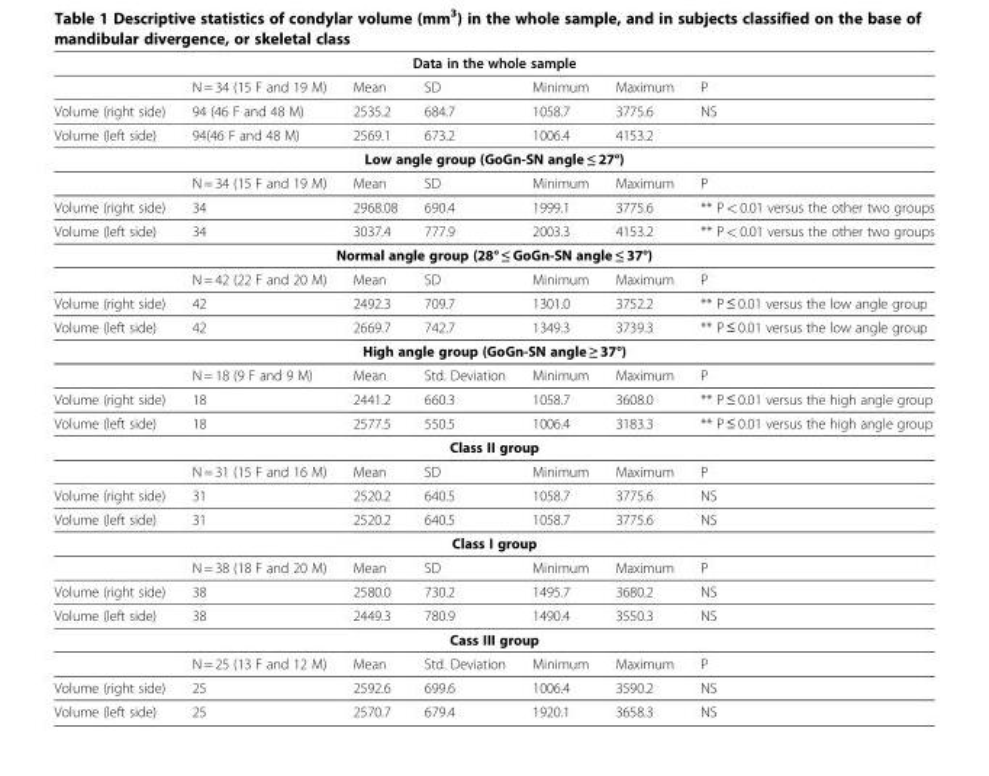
<table><thead><tr><td colspan="7">Data in the whole sample</td></tr><tr><td></td><td>N = 34 (15 F and 19 M)</td><td>Mean</td><td>SD</td><td>Minimum</td><td>Maximum</td><td>P</td></tr></thead><tbody><tr><td>Volume (right side)</td><td>94 (46 F and 48 M)</td><td>2535.2</td><td>684.7</td><td>1058.7</td><td>3775.6</td><td>NS</td></tr><tr><td>Volume (left side)</td><td>94(46 F and 48 M)</td><td>2569.1</td><td>673.2</td><td>1006.4</td><td>4153.2</td><td></td></tr><tr><td colspan="7">Low angle group (GoGn-SN angle ≤ 27°)</td></tr><tr><td></td><td>N = 34 (15 F and 19 M)</td><td>Mean</td><td>SD</td><td>Minimum</td><td>Maximum</td><td>P</td></tr><tr><td>Volume (right side)</td><td>34</td><td>2968.08</td><td>690.4</td><td>1999.1</td><td>3775.6</td><td>** P &lt; 0.01 versus the other two groups</td></tr><tr><td>Volume (left side)</td><td>34</td><td>3037.4</td><td>777.9</td><td>2003.3</td><td>4153.2</td><td>** P &lt; 0.01 versus the other two groups</td></tr><tr><td colspan="7">Normal angle group (28° ≤ GoGn-SN angle ≤ 37°)</td></tr><tr><td></td><td>N = 42 (22 F and 20 M)</td><td>Mean</td><td>SD</td><td>Minimum</td><td>Maximum</td><td>P</td></tr><tr><td>Volume (right side)</td><td>42</td><td>2492.3</td><td>709.7</td><td>1301.0</td><td>3752.2</td><td>** P ≤ 0.01 versus the low angle group</td></tr><tr><td>Volume (left side)</td><td>42</td><td>2669.7</td><td>742.7</td><td>1349.3</td><td>3739.3</td><td>** P ≤ 0.01 versus the low angle group</td></tr><tr><td colspan="7">High angle group (GoGn-SN angle ≥ 37°)</td></tr><tr><td></td><td>N = 18 (9 F and 9 M)</td><td>Mean</td><td>Std. Deviation</td><td>Minimum</td><td>Maximum</td><td>P</td></tr><tr><td>Volume (right side)</td><td>18</td><td>2441.2</td><td>660.3</td><td>1058.7</td><td>3608.0</td><td>** P ≤ 0.01 versus the high angle group</td></tr><tr><td>Volume (left side)</td><td>18</td><td>2577.5</td><td>550.5</td><td>1006.4</td><td>3183.3</td><td>** P ≤ 0.01 versus the high angle group</td></tr><tr><td colspan="7">Class II group</td></tr><tr><td></td><td>N = 31 (15 F and 16 M)</td><td>Mean</td><td>SD</td><td>Minimum</td><td>Maximum</td><td>P</td></tr><tr><td>Volume (right side)</td><td>31</td><td>2520.2</td><td>640.5</td><td>1058.7</td><td>3775.6</td><td>NS</td></tr><tr><td>Volume (left side)</td><td>31</td><td>2520.2</td><td>640.5</td><td>1058.7</td><td>3775.6</td><td>NS</td></tr><tr><td colspan="7">Class I group</td></tr><tr><td></td><td>N = 38 (18 F and 20 M)</td><td>Mean</td><td>SD</td><td>Minimum</td><td>Maximum</td><td>P</td></tr><tr><td>Volume (right side)</td><td>38</td><td>2580.0</td><td>730.2</td><td>1495.7</td><td>3680.2</td><td>NS</td></tr><tr><td>Volume (left side)</td><td>38</td><td>2449.3</td><td>780.9</td><td>1490.4</td><td>3550.3</td><td>NS</td></tr><tr><td colspan="7">Cass III group</td></tr><tr><td></td><td>N = 25 (13 F and 12 M)</td><td>Mean</td><td>Std. Deviation</td><td>Minimum</td><td>Maximum</td><td>P</td></tr><tr><td>Volume (right side)</td><td>25</td><td>2592.6</td><td>699.6</td><td>1006.4</td><td>3590.2</td><td>NS</td></tr><tr><td>Volume (left side)</td><td>25</td><td>2570.7</td><td>679.4</td><td>1920.1</td><td>3658.3</td><td>NS</td></tr></tbody></table>